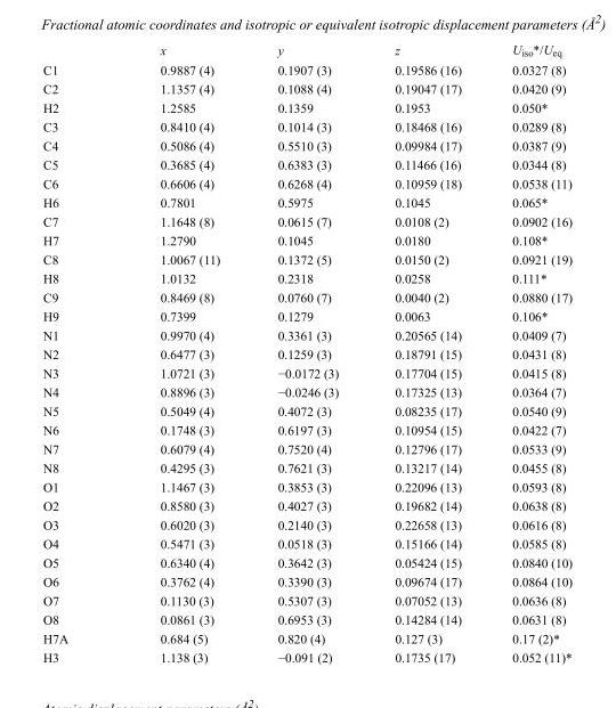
<table><thead><tr><td></td><td>x</td><td>y</td><td>z</td><td>U<sub>iso</sub>*/U<sub>eq</sub></td></tr></thead><tbody><tr><td>C1</td><td>0.9887 (4)</td><td>0.1907 (3)</td><td>0.19586 (16)</td><td>0.0327 (8)</td></tr><tr><td>C2</td><td>1.1357 (4)</td><td>0.1088 (4)</td><td>0.19047 (17)</td><td>0.0420 (9)</td></tr><tr><td>H2</td><td>1.2585</td><td>0.1359</td><td>0.1953</td><td>0.050*</td></tr><tr><td>C3</td><td>0.8410 (4)</td><td>0.1014 (3)</td><td>0.18468 (16)</td><td>0.0289 (8)</td></tr><tr><td>C4</td><td>0.5086 (4)</td><td>0.5510 (3)</td><td>0.09984 (17)</td><td>0.0387 (9)</td></tr><tr><td>C5</td><td>0.3685 (4)</td><td>0.6383 (3)</td><td>0.11466 (16)</td><td>0.0344 (8)</td></tr><tr><td>C6</td><td>0.6606 (4)</td><td>0.6268 (4)</td><td>0.10959 (18)</td><td>0.0538 (11)</td></tr><tr><td>H6</td><td>0.7801</td><td>0.5975</td><td>0.1045</td><td>0.065*</td></tr><tr><td>C7</td><td>1.1648 (8)</td><td>0.0615 (7)</td><td>0.0108 (2)</td><td>0.0902 (16)</td></tr><tr><td>H7</td><td>1.2790</td><td>0.1045</td><td>0.0180</td><td>0.108*</td></tr><tr><td>C8</td><td>1.0067 (11)</td><td>0.1372 (5)</td><td>0.0150 (2)</td><td>0.0921 (19)</td></tr><tr><td>H8</td><td>1.0132</td><td>0.2318</td><td>0.0258</td><td>0.111*</td></tr><tr><td>C9</td><td>0.8469 (8)</td><td>0.0760 (7)</td><td>0.0040 (2)</td><td>0.0880 (17)</td></tr><tr><td>H9</td><td>0.7399</td><td>0.1279</td><td>0.0063</td><td>0.106*</td></tr><tr><td>N1</td><td>0.9970 (4)</td><td>0.3361 (3)</td><td>0.20565 (14)</td><td>0.0409 (7)</td></tr><tr><td>N2</td><td>0.6477 (3)</td><td>0.1259 (3)</td><td>0.18791 (15)</td><td>0.0431 (8)</td></tr><tr><td>N3</td><td>1.0721 (3)</td><td>−0.0172 (3)</td><td>0.17704 (15)</td><td>0.0415 (8)</td></tr><tr><td>N4</td><td>0.8896 (3)</td><td>−0.0246 (3)</td><td>0.17325 (13)</td><td>0.0364 (7)</td></tr><tr><td>N5</td><td>0.5049 (4)</td><td>0.4072 (3)</td><td>0.08235 (17)</td><td>0.0540 (9)</td></tr><tr><td>N6</td><td>0.1748 (3)</td><td>0.6197 (3)</td><td>0.10954 (15)</td><td>0.0422 (7)</td></tr><tr><td>N7</td><td>0.6079 (4)</td><td>0.7520 (4)</td><td>0.12796 (17)</td><td>0.0533 (9)</td></tr><tr><td>N8</td><td>0.4295 (3)</td><td>0.7621 (3)</td><td>0.13217 (14)</td><td>0.0455 (8)</td></tr><tr><td>O1</td><td>1.1467 (3)</td><td>0.3853 (3)</td><td>0.22096 (13)</td><td>0.0593 (8)</td></tr><tr><td>O2</td><td>0.8580 (3)</td><td>0.4027 (3)</td><td>0.19682 (14)</td><td>0.0638 (8)</td></tr><tr><td>O3</td><td>0.6020 (3)</td><td>0.2140 (3)</td><td>0.22658 (13)</td><td>0.0616 (8)</td></tr><tr><td>O4</td><td>0.5471 (3)</td><td>0.0518 (3)</td><td>0.15166 (14)</td><td>0.0585 (8)</td></tr><tr><td>O5</td><td>0.6340 (4)</td><td>0.3642 (3)</td><td>0.05424 (15)</td><td>0.0840 (10)</td></tr><tr><td>O6</td><td>0.3762 (4)</td><td>0.3390 (3)</td><td>0.09674 (17)</td><td>0.0864 (10)</td></tr><tr><td>O7</td><td>0.1130 (3)</td><td>0.5307 (3)</td><td>0.07052 (13)</td><td>0.0636 (8)</td></tr><tr><td>O8</td><td>0.0861 (3)</td><td>0.6953 (3)</td><td>0.14284 (14)</td><td>0.0631 (8)</td></tr><tr><td>H7A</td><td>0.684 (5)</td><td>0.820 (4)</td><td>0.127 (3)</td><td>0.17 (2)*</td></tr><tr><td>H3</td><td>1.138 (3)</td><td>−0.091 (2)</td><td>0.1735 (17)</td><td>0.052 (11)*</td></tr></tbody></table>